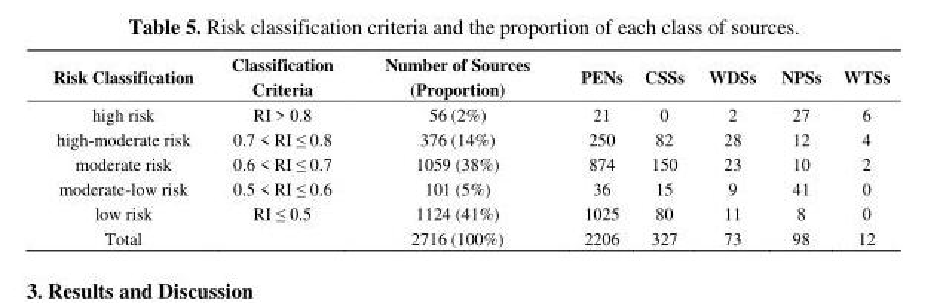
<table><thead><tr><td>Risk Classification</td><td>Classification Criteria</td><td>Number of Sources (Proportion)</td><td>PENs</td><td>CSSs</td><td>WDSs</td><td>NPSs</td><td>WTSs</td></tr></thead><tbody><tr><td>high risk</td><td>RI &gt; 0.8</td><td>56 (2%)</td><td>21</td><td>0</td><td>2</td><td>27</td><td>6</td></tr><tr><td>high-moderate risk</td><td>0.7 &lt; RI ≤ 0.8</td><td>376 (14%)</td><td>250</td><td>82</td><td>28</td><td>12</td><td>4</td></tr><tr><td>moderate risk</td><td>0.6 &lt; RI ≤ 0.7</td><td>1059 (38%)</td><td>874</td><td>150</td><td>23</td><td>10</td><td>2</td></tr><tr><td>moderate-low risk</td><td>0.5 &lt; RI ≤ 0.6</td><td>101 (5%)</td><td>36</td><td>15</td><td>9</td><td>41</td><td>0</td></tr><tr><td>low risk</td><td>RI ≤ 0.5</td><td>1124 (41%)</td><td>1025</td><td>80</td><td>11</td><td>8</td><td>0</td></tr><tr><td>Total</td><td></td><td>2716 (100%)</td><td>2206</td><td>327</td><td>73</td><td>98</td><td>12</td></tr></tbody></table>